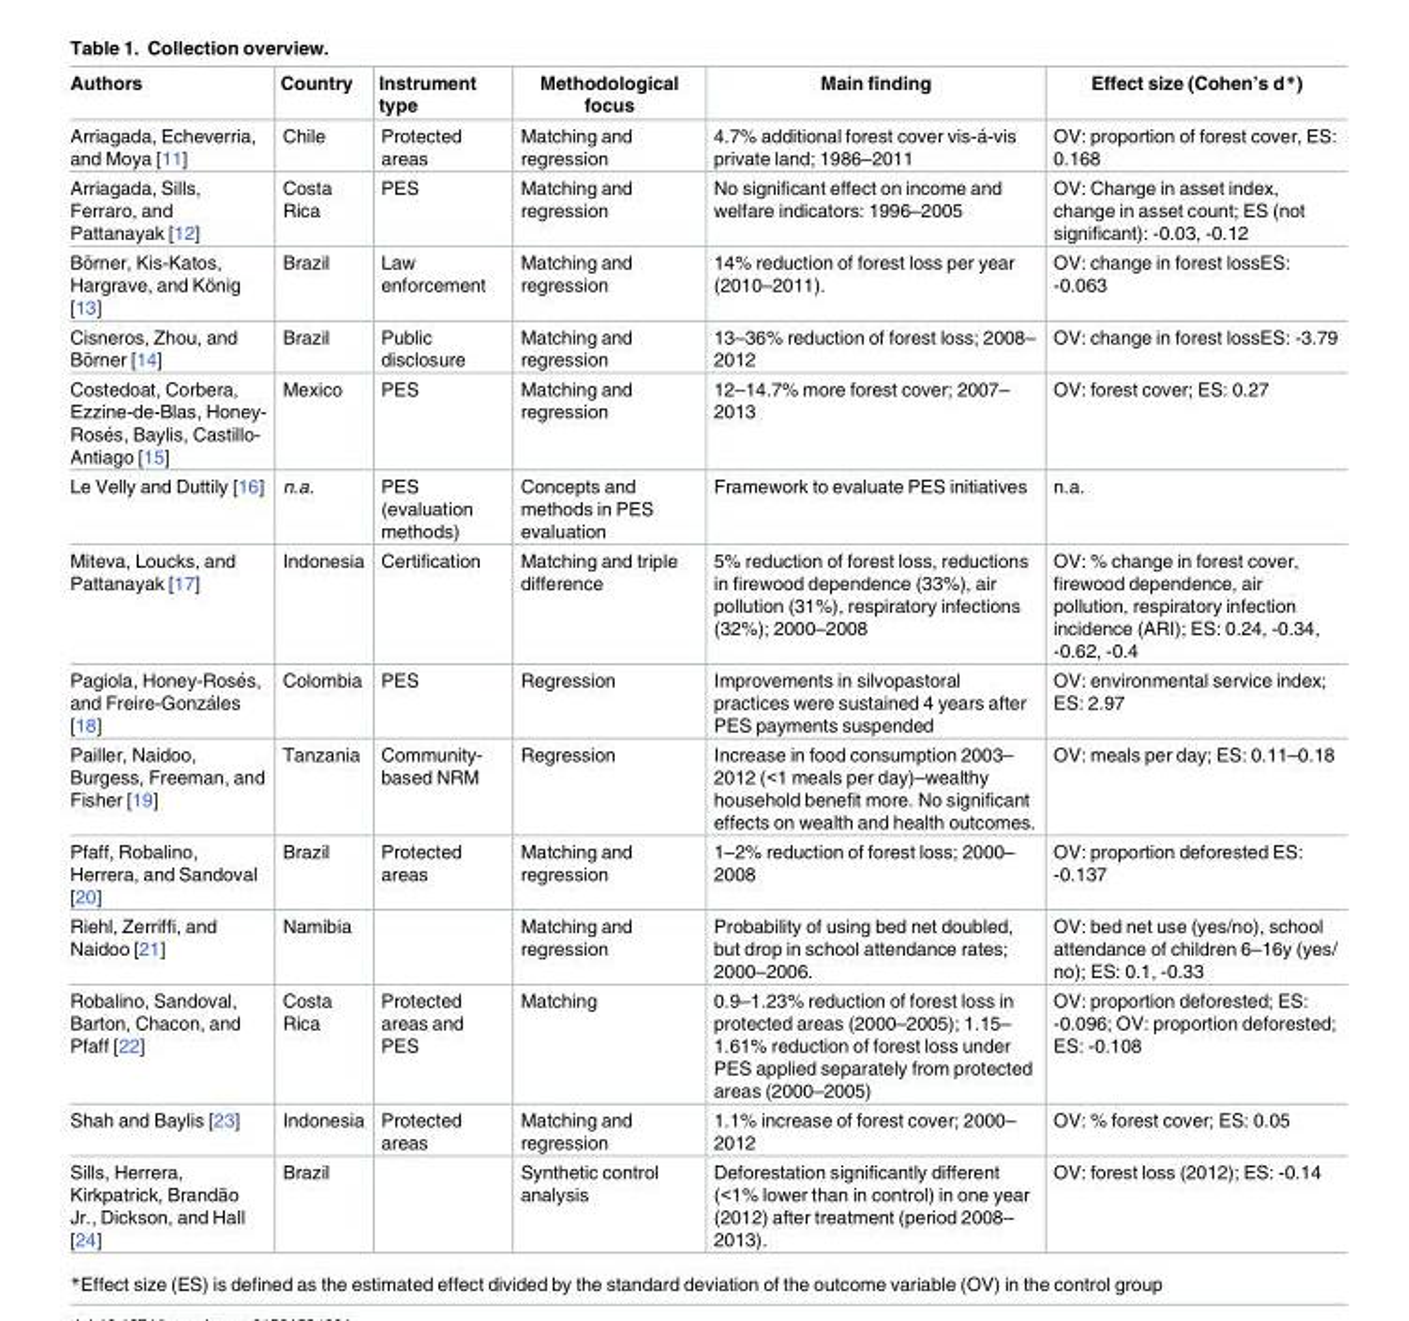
<table><thead><tr><td>Authors</td><td>Country</td><td>Instrument type</td><td>Methodological focus</td><td>Main finding</td><td>Effect size (Cohen’s d*)</td></tr></thead><tbody><tr><td>Arriagada, Echeverria, and Moya [11]</td><td>Chile</td><td>Protected areas</td><td>Matching and regression</td><td>4.7% additional forest cover vis-a´-vis private land; 1986–2011</td><td>OV: proportion of forest cover, ES: 0.168</td></tr><tr><td>Arriagada, Sills, Ferraro, and Pattanayak [12]</td><td>Costa Rica</td><td>PES</td><td>Matching and regression</td><td>No significant effect on income and welfare indicators: 1996–2005</td><td>OV: Change in asset index, change in asset count; ES (not significant): -0.03, -0.12</td></tr><tr><td>Bo¨rner, Kis-Katos, Hargrave, and Ko¨nig [13]</td><td>Brazil</td><td>Law enforcement</td><td>Matching and regression</td><td>14% reduction of forest loss per year (2010–2011).</td><td>OV: change in forest lossES: -0.063</td></tr><tr><td>Cisneros, Zhou, and Bo¨rner [14]</td><td>Brazil</td><td>Public disclosure</td><td>Matching and regression</td><td>13–36% reduction of forest loss; 2008– 2012</td><td>OV: change in forest lossES: -3.79</td></tr><tr><td>Costedoat, Corbera, Ezzine-de-Blas, Honey- Rose´s, Baylis, Castillo- Antiago [15]</td><td>Mexico</td><td>PES</td><td>Matching and regression</td><td>12–14.7% more forest cover; 2007– 2013</td><td>OV: forest cover; ES: 0.27</td></tr><tr><td>Le Velly and Duttily [16]</td><td>n.a.</td><td>PES (evaluation methods)</td><td>Concepts and methods in PES evaluation</td><td>Framework to evaluate PES initiatives</td><td>n.a.</td></tr><tr><td>Miteva, Loucks, and Pattanayak [17]</td><td>Indonesia</td><td>Certification</td><td>Matching and triple difference</td><td>5% reduction of forest loss, reductions in firewood dependence (33%), air pollution (31%), respiratory infections (32%); 2000–2008</td><td>OV: % change in forest cover, firewood dependence, air pollution, respiratory infection incidence (ARI); ES: 0.24, -0.34, -0.62, -0.4</td></tr><tr><td>Pagiola, Honey-Rose´s, and Freire-Gonza´les [18]</td><td>Colombia</td><td>PES</td><td>Regression</td><td>Improvements in silvopastoral practices were sustained 4 years after PES payments suspended</td><td>OV: environmental service index; ES: 2.97</td></tr><tr><td>Pailler, Naidoo, Burgess, Freeman, and Fisher [19]</td><td>Tanzania</td><td>Community- based NRM</td><td>Regression</td><td>Increase in food consumption 2003– 2012 (&lt;1 meals per day)–wealthy household benefit more. No significant effects on wealth and health outcomes.</td><td>OV: meals per day; ES: 0.11–0.18</td></tr><tr><td>Pfaff, Robalino, Herrera, and Sandoval [20]</td><td>Brazil</td><td>Protected areas</td><td>Matching and regression</td><td>1–2% reduction of forest loss; 2000– 2008</td><td>OV: proportion deforested ES: -0.137</td></tr><tr><td>Riehl, Zerriffi, and Naidoo [21]</td><td>Namibia</td><td></td><td>Matching and regression</td><td>Probability of using bed net doubled, but drop in school attendance rates; 2000–2006.</td><td>OV: bed net use (yes/no), school attendance of children 6–16y (yes/ no); ES: 0.1, -0.33</td></tr><tr><td>Robalino, Sandoval, Barton, Chacon, and Pfaff [22]</td><td>Costa Rica</td><td>Protected areas and PES</td><td>Matching</td><td>0.9–1.23% reduction of forest loss in protected areas (2000–2005); 1.15– 1.61% reduction of forest loss under PES applied separately from protected areas (2000–2005)</td><td>OV: proportion deforested; ES: -0.096; OV: proportion deforested; ES: -0.108</td></tr><tr><td>Shah and Baylis [23]</td><td>Indonesia</td><td>Protected areas</td><td>Matching and regression</td><td>1.1% increase of forest cover; 2000– 2012</td><td>OV: % forest cover; ES: 0.05</td></tr><tr><td>Sills, Herrera, Kirkpatrick, Brandão Jr., Dickson, and Hall [24]</td><td>Brazil</td><td></td><td>Synthetic control analysis</td><td>Deforestation significantly different (&lt;1% lower than in control) in one year (2012) after treatment (period 2008– 2013).</td><td>OV: forest loss (2012); ES: -0.14</td></tr></tbody></table>